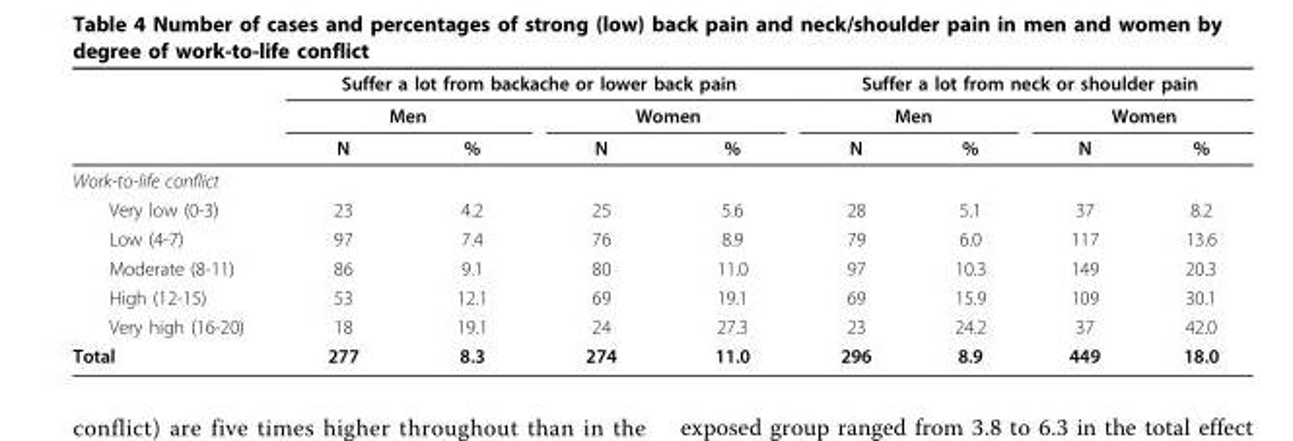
<table><thead><tr><td rowspan="3"></td><td colspan="4">Suffer a lot from backache or lower back pain</td><td colspan="4">Suffer a lot from neck or shoulder pain</td></tr><tr><td colspan="2">Men</td><td colspan="2">Women</td><td colspan="2">Men</td><td colspan="2">Women</td></tr><tr><td>N</td><td>%</td><td>N</td><td>%</td><td>N</td><td>%</td><td>N</td><td>%</td></tr></thead><tbody><tr><td colspan="9">Work-to-life conflict</td></tr><tr><td>Very low (0-3)</td><td>23</td><td>4.2</td><td>25</td><td>5.6</td><td>28</td><td>5.1</td><td>37</td><td>8.2</td></tr><tr><td>Low (4-7)</td><td>97</td><td>7.4</td><td>76</td><td>8.9</td><td>79</td><td>6.0</td><td>117</td><td>13.6</td></tr><tr><td>Moderate (8-11)</td><td>86</td><td>9.1</td><td>80</td><td>11.0</td><td>97</td><td>10.3</td><td>149</td><td>20.3</td></tr><tr><td>High (12-15)</td><td>53</td><td>12.1</td><td>69</td><td>19.1</td><td>69</td><td>15.9</td><td>109</td><td>30.1</td></tr><tr><td>Very high (16-20)</td><td>18</td><td>19.1</td><td>24</td><td>27.3</td><td>23</td><td>24.2</td><td>37</td><td>42.0</td></tr><tr><td>Total</td><td>277</td><td>8.3</td><td>274</td><td>11.0</td><td>296</td><td>8.9</td><td>449</td><td>18.0</td></tr></tbody></table>